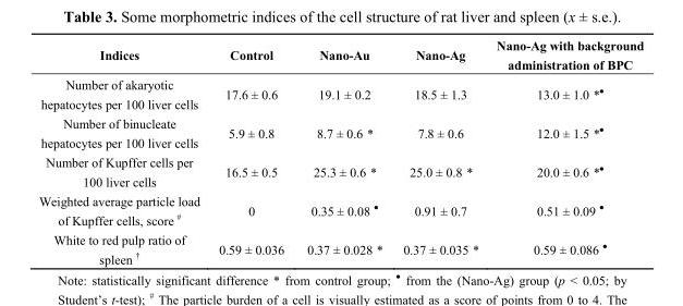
<table><thead><tr><td>Indices</td><td>Control</td><td>Nano-Au</td><td>Nano-Ag</td><td>Nano-Ag with background administration of BPC</td></tr></thead><tbody><tr><td>Number of akaryotic hepatocytes per 100 liver cells</td><td>17.6 ± 0.6</td><td>19.1 ± 0.2</td><td>18.5 ± 1.3</td><td>13.0 ± 1.0 *●</td></tr><tr><td>Number of binucleate hepatocytes per 100 liver cells</td><td>5.9 ± 0.8</td><td>8.7 ± 0.6 *</td><td>7.8 ± 0.6</td><td>12.0 ± 1.5 *●</td></tr><tr><td>Number of Kupffer cells per 100 liver cells</td><td>16.5 ± 0.5</td><td>25.3 ± 0.6 *</td><td>25.0 ± 0.8 *</td><td>20.0 ± 0.6 *●</td></tr><tr><td>Weighted average particle load of Kupffer cells, score #</td><td>0</td><td>0.35 ± 0.08 ●</td><td>0.91 ± 0.7</td><td>0.51 ± 0.09 ●</td></tr><tr><td>White to red pulp ratio of spleen †</td><td>0.59 ± 0.036</td><td>0.37 ± 0.028 *</td><td>0.37 ± 0.035 *</td><td>0.59 ± 0.086 ●</td></tr></tbody></table>